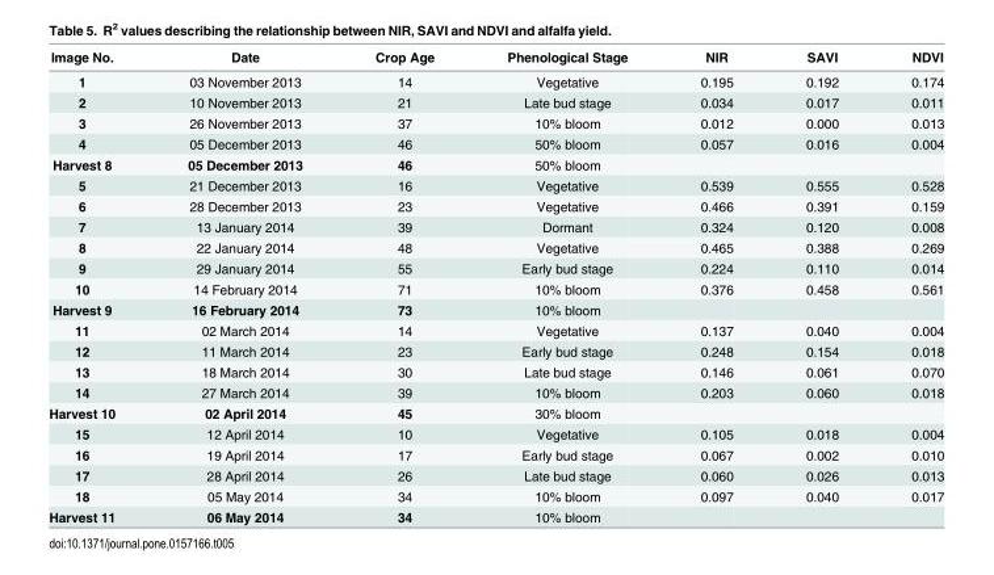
<table><thead><tr><td>Image No.</td><td>Date</td><td>Crop Age</td><td>Phenological Stage</td><td>NIR</td><td>SAVI</td><td>NDVI</td></tr></thead><tbody><tr><td>1</td><td>03 November 2013</td><td>14</td><td>Vegetative</td><td>0.195</td><td>0.192</td><td>0.174</td></tr><tr><td>2</td><td>10 November 2013</td><td>21</td><td>Late bud stage</td><td>0.034</td><td>0.017</td><td>0.011</td></tr><tr><td>3</td><td>26 November 2013</td><td>37</td><td>10% bloom</td><td>0.012</td><td>0.000</td><td>0.013</td></tr><tr><td>4</td><td>05 December 2013</td><td>46</td><td>50% bloom</td><td>0.057</td><td>0.016</td><td>0.004</td></tr><tr><td>Harvest 8</td><td>05 December 2013</td><td>46</td><td>50% bloom</td><td></td><td></td><td></td></tr><tr><td>5</td><td>21 December 2013</td><td>16</td><td>Vegetative</td><td>0.539</td><td>0.555</td><td>0.528</td></tr><tr><td>6</td><td>28 December 2013</td><td>23</td><td>Vegetative</td><td>0.466</td><td>0.391</td><td>0.159</td></tr><tr><td>7</td><td>13 January 2014</td><td>39</td><td>Dormant</td><td>0.324</td><td>0.120</td><td>0.008</td></tr><tr><td>8</td><td>22 January 2014</td><td>48</td><td>Vegetative</td><td>0.465</td><td>0.388</td><td>0.269</td></tr><tr><td>9</td><td>29 January 2014</td><td>55</td><td>Early bud stage</td><td>0.224</td><td>0.110</td><td>0.014</td></tr><tr><td>10</td><td>14 February 2014</td><td>71</td><td>10% bloom</td><td>0.376</td><td>0.458</td><td>0.561</td></tr><tr><td>Harvest 9</td><td>16 February 2014</td><td>73</td><td>10% bloom</td><td></td><td></td><td></td></tr><tr><td>11</td><td>02 March 2014</td><td>14</td><td>Vegetative</td><td>0.137</td><td>0.040</td><td>0.004</td></tr><tr><td>12</td><td>11 March 2014</td><td>23</td><td>Early bud stage</td><td>0.248</td><td>0.154</td><td>0.018</td></tr><tr><td>13</td><td>18 March 2014</td><td>30</td><td>Late bud stage</td><td>0.146</td><td>0.061</td><td>0.070</td></tr><tr><td>14</td><td>27 March 2014</td><td>39</td><td>10% bloom</td><td>0.203</td><td>0.060</td><td>0.018</td></tr><tr><td>Harvest 10</td><td>02 April 2014</td><td>45</td><td>30% bloom</td><td></td><td></td><td></td></tr><tr><td>15</td><td>12 April 2014</td><td>10</td><td>Vegetative</td><td>0.105</td><td>0.018</td><td>0.004</td></tr><tr><td>16</td><td>19 April 2014</td><td>17</td><td>Early bud stage</td><td>0.067</td><td>0.002</td><td>0.010</td></tr><tr><td>17</td><td>28 April 2014</td><td>26</td><td>Late bud stage</td><td>0.060</td><td>0.026</td><td>0.013</td></tr><tr><td>18</td><td>05 May 2014</td><td>34</td><td>10% bloom</td><td>0.097</td><td>0.040</td><td>0.017</td></tr><tr><td>Harvest 11</td><td>06 May 2014</td><td>34</td><td>10% bloom</td><td></td><td></td><td></td></tr></tbody></table>